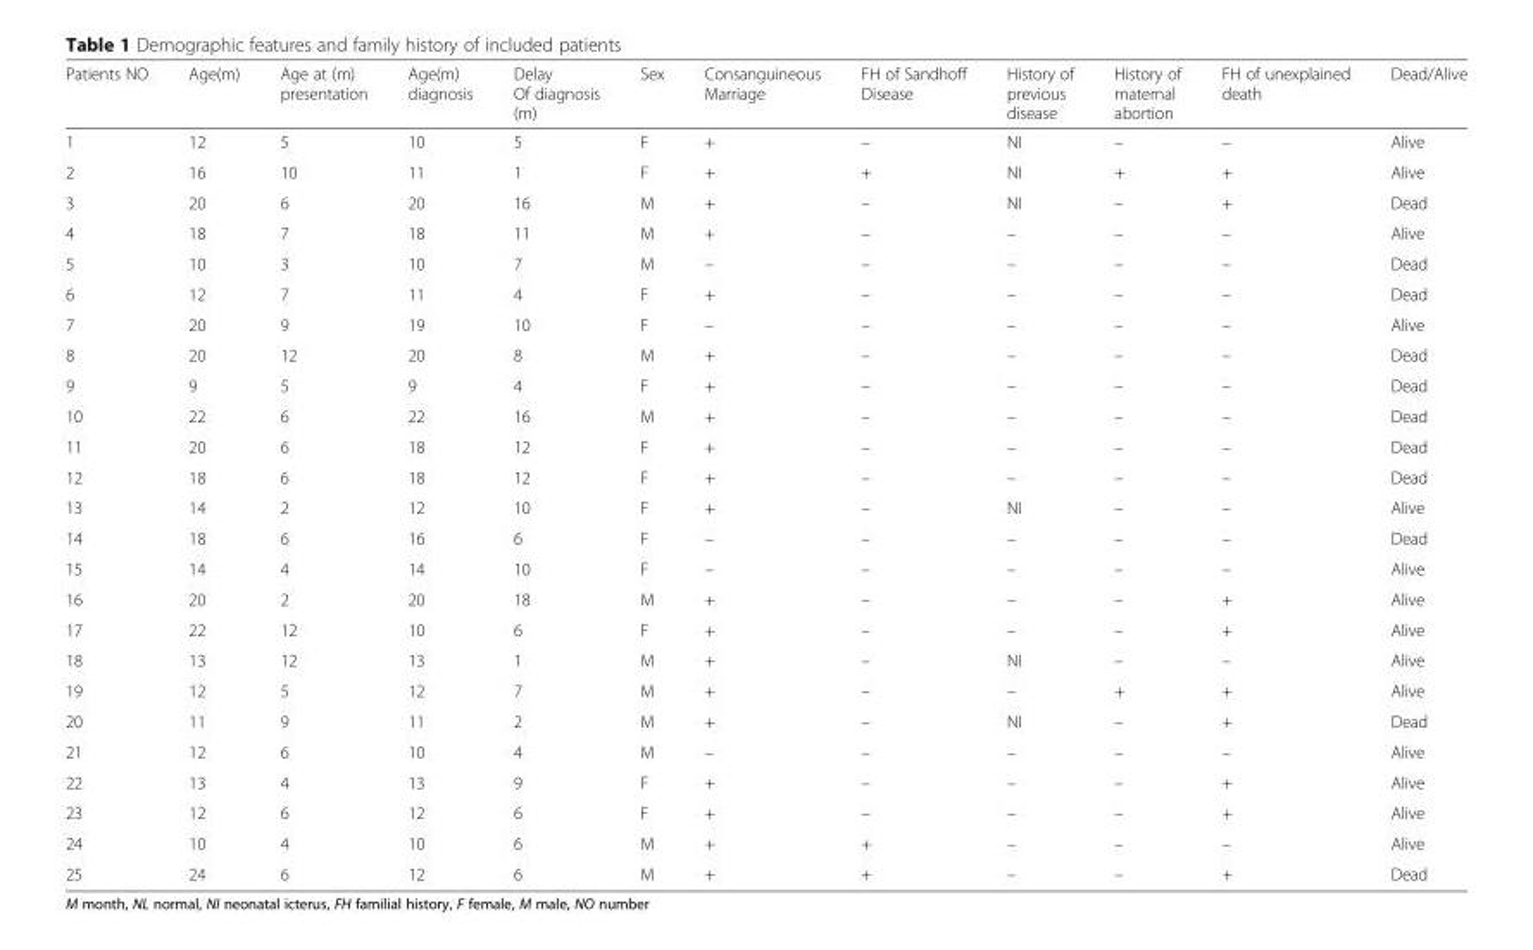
<table><thead><tr><td>Patients NO</td><td>Age(m)</td><td>Age at (m) presentation</td><td>Age(m) diagnosis</td><td>Delay Of diagnosis (m)</td><td>Sex</td><td>Consanguineous Marriage</td><td>FH of Sandhoff Disease</td><td>History of previous disease</td><td>History of maternal abortion</td><td>FH of unexplained death</td><td>Dead/Alive</td></tr></thead><tbody><tr><td>1</td><td>12</td><td>5</td><td>10</td><td>5</td><td>F</td><td>+</td><td>–</td><td>NI</td><td>–</td><td>–</td><td>Alive</td></tr><tr><td>2</td><td>16</td><td>10</td><td>11</td><td>1</td><td>F</td><td>+</td><td>+</td><td>NI</td><td>+</td><td>+</td><td>Alive</td></tr><tr><td>3</td><td>20</td><td>6</td><td>20</td><td>16</td><td>M</td><td>+</td><td>–</td><td>NI</td><td>–</td><td>+</td><td>Dead</td></tr><tr><td>4</td><td>18</td><td>7</td><td>18</td><td>11</td><td>M</td><td>+</td><td>–</td><td>–</td><td>–</td><td>–</td><td>Alive</td></tr><tr><td>5</td><td>10</td><td>3</td><td>10</td><td>7</td><td>M</td><td>–</td><td>–</td><td>–</td><td>–</td><td>–</td><td>Dead</td></tr><tr><td>6</td><td>12</td><td>7</td><td>11</td><td>4</td><td>F</td><td>+</td><td>–</td><td>–</td><td>–</td><td>–</td><td>Dead</td></tr><tr><td>7</td><td>20</td><td>9</td><td>19</td><td>10</td><td>F</td><td>–</td><td>–</td><td>–</td><td>–</td><td>–</td><td>Alive</td></tr><tr><td>8</td><td>20</td><td>12</td><td>20</td><td>8</td><td>M</td><td>+</td><td>–</td><td>–</td><td>–</td><td>–</td><td>Dead</td></tr><tr><td>9</td><td>9</td><td>5</td><td>9</td><td>4</td><td>F</td><td>+</td><td>–</td><td>–</td><td>–</td><td>–</td><td>Dead</td></tr><tr><td>10</td><td>22</td><td>6</td><td>22</td><td>16</td><td>M</td><td>+</td><td>–</td><td>–</td><td>–</td><td>–</td><td>Dead</td></tr><tr><td>11</td><td>20</td><td>6</td><td>18</td><td>12</td><td>F</td><td>+</td><td>–</td><td>–</td><td>–</td><td>–</td><td>Dead</td></tr><tr><td>12</td><td>18</td><td>6</td><td>18</td><td>12</td><td>F</td><td>+</td><td>–</td><td>–</td><td>–</td><td>–</td><td>Dead</td></tr><tr><td>13</td><td>14</td><td>2</td><td>12</td><td>10</td><td>F</td><td>+</td><td>–</td><td>NI</td><td>–</td><td>–</td><td>Alive</td></tr><tr><td>14</td><td>18</td><td>6</td><td>16</td><td>6</td><td>F</td><td>–</td><td>–</td><td>–</td><td>–</td><td>–</td><td>Dead</td></tr><tr><td>15</td><td>14</td><td>4</td><td>14</td><td>10</td><td>F</td><td>–</td><td>–</td><td>–</td><td>–</td><td>–</td><td>Alive</td></tr><tr><td>16</td><td>20</td><td>2</td><td>20</td><td>18</td><td>M</td><td>+</td><td>–</td><td>–</td><td>–</td><td>+</td><td>Alive</td></tr><tr><td>17</td><td>22</td><td>12</td><td>10</td><td>6</td><td>F</td><td>+</td><td>–</td><td>–</td><td>–</td><td>+</td><td>Alive</td></tr><tr><td>18</td><td>13</td><td>12</td><td>13</td><td>1</td><td>M</td><td>+</td><td>–</td><td>NI</td><td>–</td><td>–</td><td>Alive</td></tr><tr><td>19</td><td>12</td><td>5</td><td>12</td><td>7</td><td>M</td><td>+</td><td>–</td><td>–</td><td>+</td><td>+</td><td>Alive</td></tr><tr><td>20</td><td>11</td><td>9</td><td>11</td><td>2</td><td>M</td><td>+</td><td>–</td><td>NI</td><td>–</td><td>+</td><td>Dead</td></tr><tr><td>21</td><td>12</td><td>6</td><td>10</td><td>4</td><td>M</td><td>–</td><td>–</td><td>–</td><td>–</td><td>–</td><td>Alive</td></tr><tr><td>22</td><td>13</td><td>4</td><td>13</td><td>9</td><td>F</td><td>+</td><td>–</td><td>–</td><td>–</td><td>+</td><td>Alive</td></tr><tr><td>23</td><td>12</td><td>6</td><td>12</td><td>6</td><td>F</td><td>+</td><td>–</td><td>–</td><td>–</td><td>+</td><td>Alive</td></tr><tr><td>24</td><td>10</td><td>4</td><td>10</td><td>6</td><td>M</td><td>+</td><td>+</td><td>–</td><td>–</td><td>–</td><td>Alive</td></tr><tr><td>25</td><td>24</td><td>6</td><td>12</td><td>6</td><td>M</td><td>+</td><td>+</td><td>–</td><td>–</td><td>+</td><td>Dead</td></tr></tbody></table>